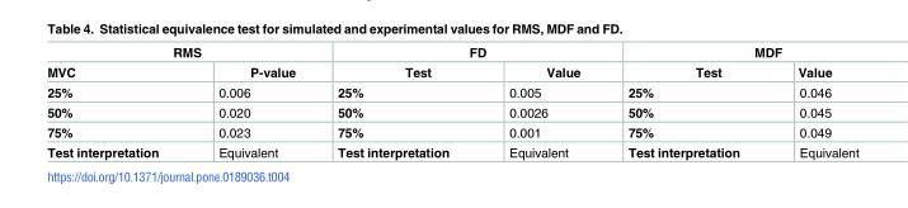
<table><thead><tr><td colspan="2">RMS</td><td colspan="2">FD</td><td colspan="2">MDF</td></tr><tr><td>MVC</td><td>P-value</td><td>Test</td><td>Value</td><td>Test</td><td>Value</td></tr></thead><tbody><tr><td>25%</td><td>0.006</td><td>25%</td><td>0.005</td><td>25%</td><td>0.046</td></tr><tr><td>50%</td><td>0.020</td><td>50%</td><td>0.0026</td><td>50%</td><td>0.045</td></tr><tr><td>75%</td><td>0.023</td><td>75%</td><td>0.001</td><td>75%</td><td>0.049</td></tr><tr><td>Test interpretation</td><td>Equivalent</td><td>Test interpretation</td><td>Equivalent</td><td>Test interpretation</td><td>Equivalent</td></tr></tbody></table>